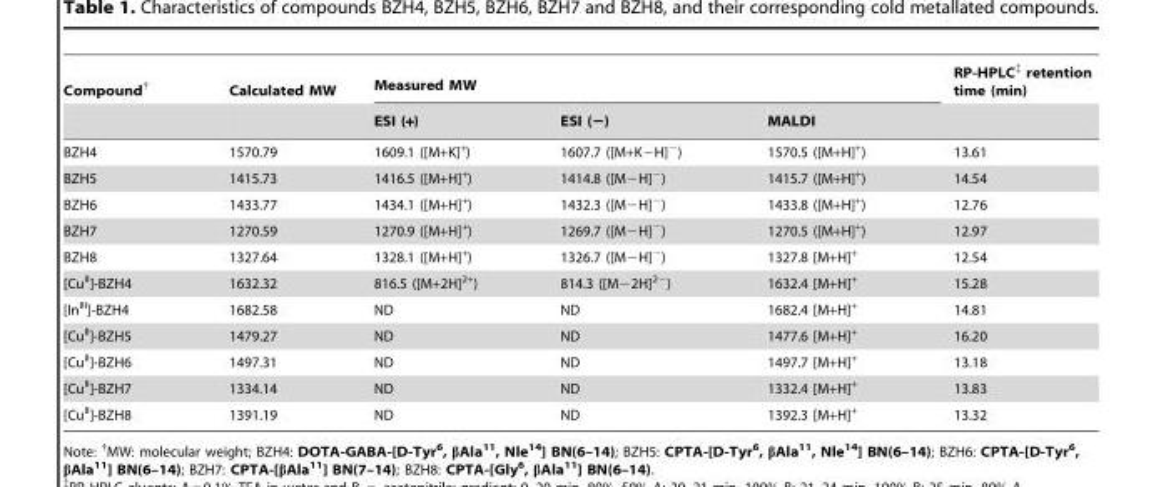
<table><thead><tr><td rowspan="2">Compound<sup>†</sup></td><td rowspan="2">Calculated MW</td><td colspan="3">Measured MW</td><td rowspan="2">RP-HPLC‡ retention time (min)</td></tr><tr><td>ESI (+)</td><td>ESI (−)</td><td>MALDI</td></tr></thead><tbody><tr><td>BZH4</td><td>1570.79</td><td>1609.1 ([M+K]<sup>+</sup>)</td><td>1607.7 ([M+K−H]<sup>−</sup>)</td><td>1570.5 ([M+H]<sup>+</sup>)</td><td>13.61</td></tr><tr><td>BZH5</td><td>1415.73</td><td>1416.5 ([M+H]<sup>+</sup>)</td><td>1414.8 ([M−H]<sup>−</sup>)</td><td>1415.7 ([M+H]<sup>+</sup>)</td><td>14.54</td></tr><tr><td>BZH6</td><td>1433.77</td><td>1434.1 ([M+H]<sup>+</sup>)</td><td>1432.3 ([M−H]<sup>−</sup>)</td><td>1433.8 ([M+H]<sup>+</sup>)</td><td>12.76</td></tr><tr><td>BZH7</td><td>1270.59</td><td>1270.9 ([M+H]<sup>+</sup>)</td><td>1269.7 ([M−H]<sup>−</sup>)</td><td>1270.5 ([M+H]<sup>+</sup>)</td><td>12.97</td></tr><tr><td>BZH8</td><td>1327.64</td><td>1328.1 ([M+H]<sup>+</sup>)</td><td>1326.7 ([M−H]<sup>−</sup>)</td><td>1327.8 [M+H]<sup>+</sup></td><td>12.54</td></tr><tr><td>[Cu<sup>II</sup>]-BZH4</td><td>1632.32</td><td>816.5 ([M+2H]<sup>2+</sup>)</td><td>814.3 ([M−2H]<sup>2−</sup>)</td><td>1632.4 [M+H]<sup>+</sup></td><td>15.28</td></tr><tr><td>[In<sup>III</sup>]-BZH4</td><td>1682.58</td><td>ND</td><td>ND</td><td>1682.4 [M+H]<sup>+</sup></td><td>14.81</td></tr><tr><td>[Cu<sup>II</sup>]-BZH5</td><td>1479.27</td><td>ND</td><td>ND</td><td>1477.6 [M+H]<sup>+</sup></td><td>16.20</td></tr><tr><td>[Cu<sup>II</sup>]-BZH6</td><td>1497.31</td><td>ND</td><td>ND</td><td>1497.7 [M+H]<sup>+</sup></td><td>13.18</td></tr><tr><td>[Cu<sup>II</sup>]-BZH7</td><td>1334.14</td><td>ND</td><td>ND</td><td>1332.4 [M+H]<sup>+</sup></td><td>13.83</td></tr><tr><td>[Cu<sup>II</sup>]-BZH8</td><td>1391.19</td><td>ND</td><td>ND</td><td>1392.3 [M+H]<sup>+</sup></td><td>13.32</td></tr></tbody></table>